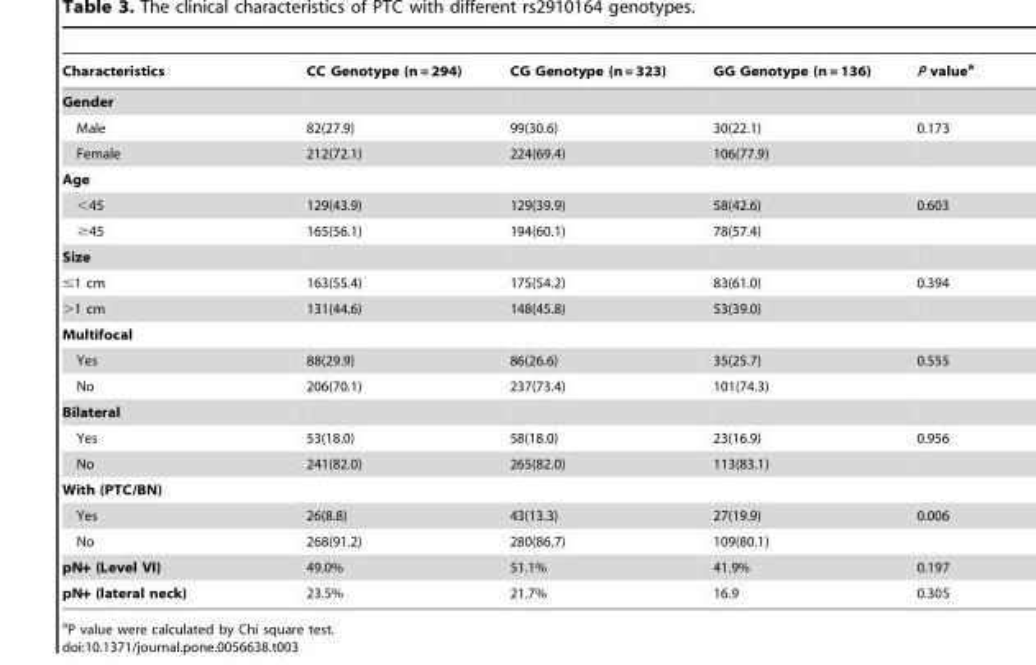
<table><thead><tr><td>Characteristics</td><td>CC Genotype (n = 294)</td><td>CG Genotype (n = 323)</td><td>GG Genotype (n = 136)</td><td>P value<sup>a</sup></td></tr></thead><tbody><tr><td colspan="5">Gender</td></tr><tr><td>Male</td><td>82(27.9)</td><td>99(30.6)</td><td>30(22.1)</td><td>0.173</td></tr><tr><td>Female</td><td>212(72.1)</td><td>224(69.4)</td><td>106(77.9)</td><td></td></tr><tr><td colspan="5">Age</td></tr><tr><td>&lt;45</td><td>129(43.9)</td><td>129(39.9)</td><td>58(42.6)</td><td>0.603</td></tr><tr><td>≥45</td><td>165(56.1)</td><td>194(60.1)</td><td>78(57.4)</td><td></td></tr><tr><td colspan="5">Size</td></tr><tr><td>≤1 cm</td><td>163(55.4)</td><td>175(54.2)</td><td>83(61.0)</td><td>0.394</td></tr><tr><td>&gt;1 cm</td><td>131(44.6)</td><td>148(45.8)</td><td>53(39.0)</td><td></td></tr><tr><td colspan="5">Multifocal</td></tr><tr><td>Yes</td><td>88(29.9)</td><td>86(26.6)</td><td>35(25.7)</td><td>0.555</td></tr><tr><td>No</td><td>206(70.1)</td><td>237(73.4)</td><td>101(74.3)</td><td></td></tr><tr><td colspan="5">Bilateral</td></tr><tr><td>Yes</td><td>53(18.0)</td><td>58(18.0)</td><td>23(16.9)</td><td>0.956</td></tr><tr><td>No</td><td>241(82.0)</td><td>265(82.0)</td><td>113(83.1)</td><td></td></tr><tr><td colspan="5">With (PTC/BN)</td></tr><tr><td>Yes</td><td>26(8.8)</td><td>43(13.3)</td><td>27(19.9)</td><td>0.006</td></tr><tr><td>No</td><td>268(91.2)</td><td>280(86.7)</td><td>109(80.1)</td><td></td></tr><tr><td>pN+ (Level VI)</td><td>49.0%</td><td>51.1%</td><td>41.9%</td><td>0.197</td></tr><tr><td>pN+ (lateral neck)</td><td>23.5%</td><td>21.7%</td><td>16.9</td><td>0.305</td></tr></tbody></table>